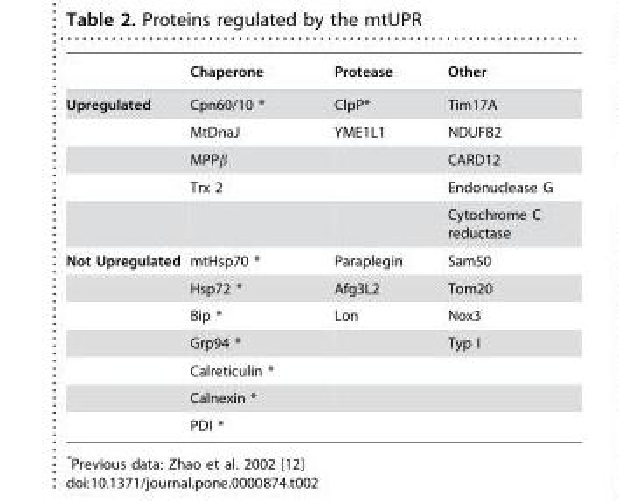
<table><thead><tr><td></td><td>Chaperone</td><td>Protease</td><td>Other</td></tr></thead><tbody><tr><td rowspan="5">Upregulated</td><td>Cpn60/10 *</td><td>ClpP*</td><td>Tim17A</td></tr><tr><td>MtDnaJ</td><td>YME1L1</td><td>NDUFB2</td></tr><tr><td>MPPβ</td><td></td><td>CARD12</td></tr><tr><td>Trx 2</td><td></td><td>Endonuclease G</td></tr><tr><td></td><td></td><td>Cytochrome C reductase</td></tr><tr><td rowspan="7">Not Upregulated</td><td>mtHsp70 *</td><td>Paraplegin</td><td>Sam50</td></tr><tr><td>Hsp72 *</td><td>Afg3L2</td><td>Tom20</td></tr><tr><td>Bip *</td><td>Lon</td><td>Nox3</td></tr><tr><td>Grp94 *</td><td></td><td>Typ I</td></tr><tr><td>Calreticulin *</td><td></td><td></td></tr><tr><td>Calnexin *</td><td></td><td></td></tr><tr><td>PDI *</td><td></td><td></td></tr></tbody></table>